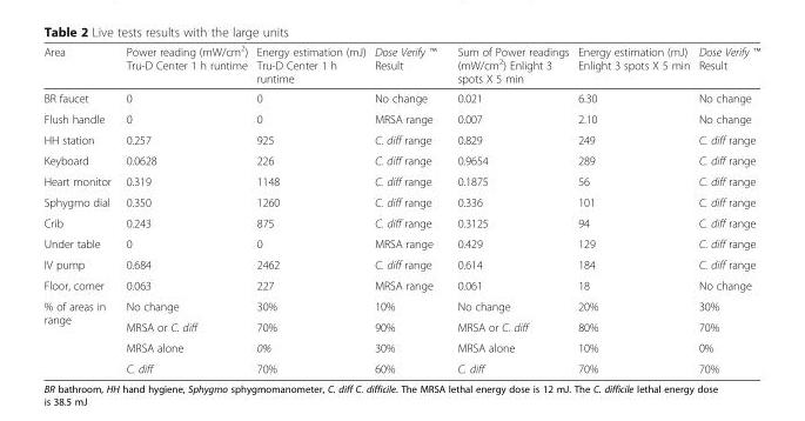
<table><thead><tr><td>Area</td><td>Power reading (mW/cm<sup>2</sup>) Tru-D Center 1 h runtime</td><td>Energy estimation (mJ) Tru-D Center 1 h runtime</td><td>Dose Verify ™ Result</td><td>Sum of Power readings (mW/cm<sup>2</sup>) Enlight 3 spots X 5 min</td><td>Energy estimation (mJ) Enlight 3 spots X 5 min</td><td>Dose Verify ™ Result</td></tr></thead><tbody><tr><td>BR faucet</td><td>0</td><td>0</td><td>No change</td><td>0.021</td><td>6.30</td><td>No change</td></tr><tr><td>Flush handle</td><td>0</td><td>0</td><td>MRSA range</td><td>0.007</td><td>2.10</td><td>No change</td></tr><tr><td>HH station</td><td>0.257</td><td>925</td><td>C. diff range</td><td>0.829</td><td>249</td><td>C. diff range</td></tr><tr><td>Keyboard</td><td>0.0628</td><td>226</td><td>C. diff range</td><td>0.9654</td><td>289</td><td>C. diff range</td></tr><tr><td>Heart monitor</td><td>0.319</td><td>1148</td><td>C. diff range</td><td>0.1875</td><td>56</td><td>C. diff range</td></tr><tr><td>Sphygmo dial</td><td>0.350</td><td>1260</td><td>C. diff range</td><td>0.336</td><td>101</td><td>C. diff range</td></tr><tr><td>Crib</td><td>0.243</td><td>875</td><td>C. diff range</td><td>0.3125</td><td>94</td><td>C. diff range</td></tr><tr><td>Under table</td><td>0</td><td>0</td><td>MRSA range</td><td>0.429</td><td>129</td><td>C. diff range</td></tr><tr><td>IV pump</td><td>0.684</td><td>2462</td><td>C. diff range</td><td>0.614</td><td>184</td><td>C. diff range</td></tr><tr><td>Floor, corner</td><td>0.063</td><td>227</td><td>MRSA range</td><td>0.061</td><td>18</td><td>No change</td></tr><tr><td rowspan="4">% of areas in range</td><td>No change</td><td>30%</td><td>10%</td><td>No change</td><td>20%</td><td>30%</td></tr><tr><td>MRSA or C. diff</td><td>70%</td><td>90%</td><td>MRSA or C. diff</td><td>80%</td><td>70%</td></tr><tr><td>MRSA alone</td><td>0%</td><td>30%</td><td>MRSA alone</td><td>10%</td><td>0%</td></tr><tr><td>C. diff</td><td>70%</td><td>60%</td><td>C. diff</td><td>70%</td><td>70%</td></tr></tbody></table>